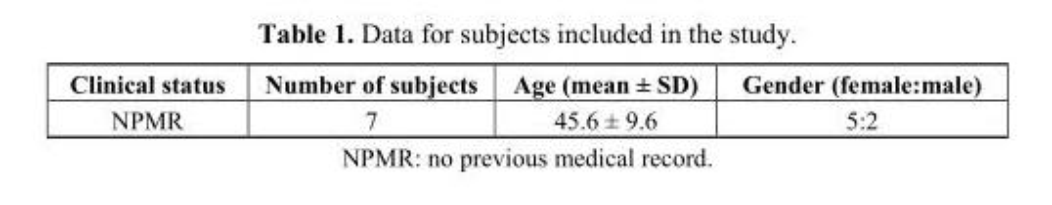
<table><thead><tr><td>Clinical status</td><td>Number of subjects</td><td>Age (mean ± SD)</td><td>Gender (female:male)</td></tr></thead><tbody><tr><td>NPMR</td><td>7</td><td>45.6 ± 9.6</td><td>5:2</td></tr></tbody></table>